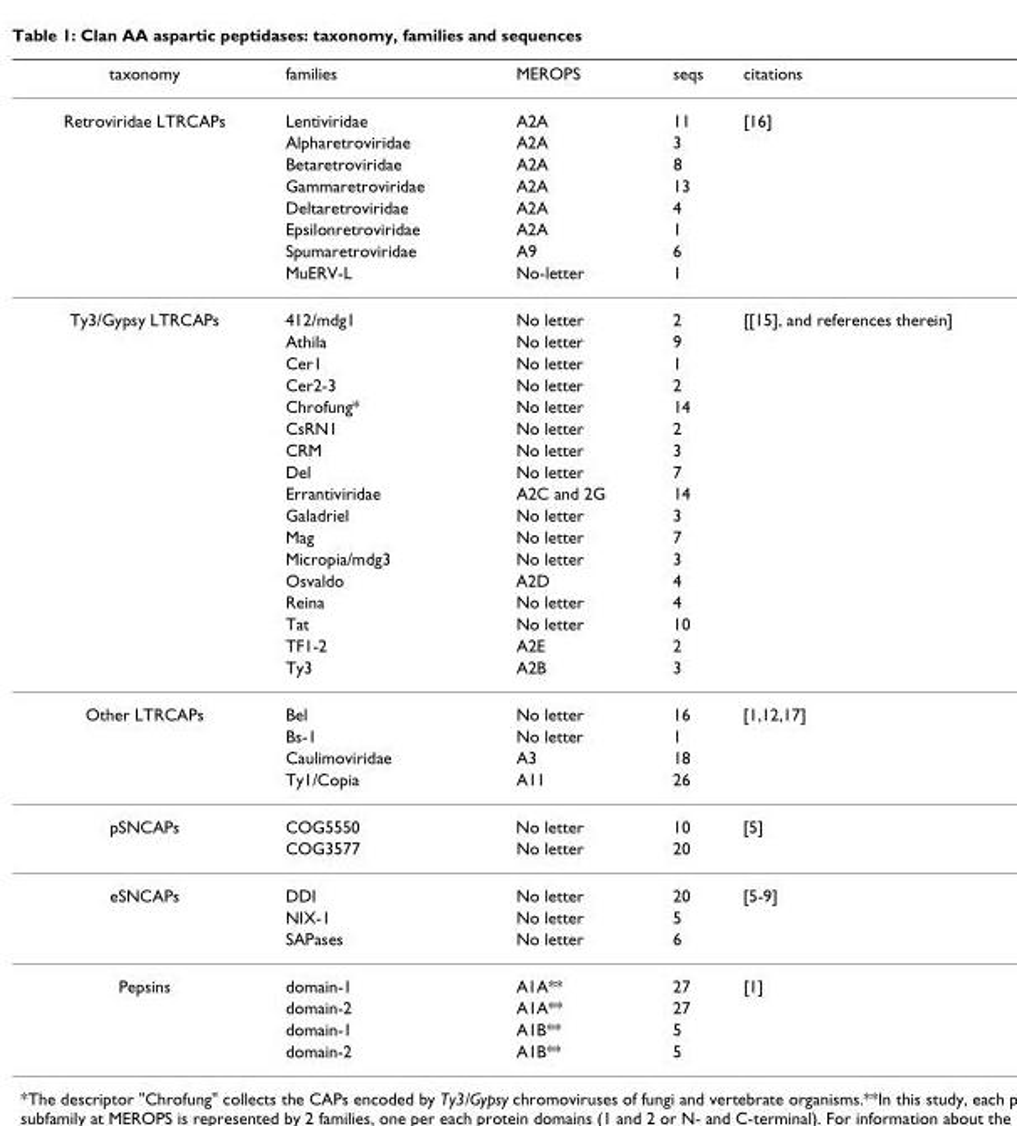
<table><thead><tr><td>taxonomy</td><td>families</td><td>MEROPS</td><td>seqs</td><td>citations</td></tr></thead><tbody><tr><td rowspan="8">Retroviridae LTRCAPs</td><td>Lentiviridae</td><td>A2A</td><td>11</td><td>[16]</td></tr><tr><td>Alpharetroviridae</td><td>A2A</td><td>3</td><td></td></tr><tr><td>Betaretroviridae</td><td>A2A</td><td>8</td><td></td></tr><tr><td>Gammaretroviridae</td><td>A2A</td><td>13</td><td></td></tr><tr><td>Deltaretroviridae</td><td>A2A</td><td>4</td><td></td></tr><tr><td>Epsilonretroviridae</td><td>A2A</td><td>1</td><td></td></tr><tr><td>Spumaretroviridae</td><td>A9</td><td>6</td><td></td></tr><tr><td>MuERV-L</td><td>No-letter</td><td>1</td><td></td></tr><tr><td rowspan="17">Ty3/Gypsy LTRCAPs</td><td>412/mdg1</td><td>No letter</td><td>2</td><td>[[15], and references therein]</td></tr><tr><td>Athila</td><td>No letter</td><td>9</td><td></td></tr><tr><td>Cer1</td><td>No letter</td><td>1</td><td></td></tr><tr><td>Cer2-3</td><td>No letter</td><td>2</td><td></td></tr><tr><td>Chrofung*</td><td>No letter</td><td>14</td><td></td></tr><tr><td>CsRN1</td><td>No letter</td><td>2</td><td></td></tr><tr><td>CRM</td><td>No letter</td><td>3</td><td></td></tr><tr><td>Del</td><td>No letter</td><td>7</td><td></td></tr><tr><td>Errantiviridae</td><td>A2C and 2G</td><td>14</td><td></td></tr><tr><td>Galadriel</td><td>No letter</td><td>3</td><td></td></tr><tr><td>Mag</td><td>No letter</td><td>7</td><td></td></tr><tr><td>Micropia/mdg3</td><td>No letter</td><td>3</td><td></td></tr><tr><td>Osvaldo</td><td>A2D</td><td>4</td><td></td></tr><tr><td>Reina</td><td>No letter</td><td>4</td><td></td></tr><tr><td>Tat</td><td>No letter</td><td>10</td><td></td></tr><tr><td>TF1-2</td><td>A2E</td><td>2</td><td></td></tr><tr><td>Ty3</td><td>A2B</td><td>3</td><td></td></tr><tr><td rowspan="4">Other LTRCAPs</td><td>Bel</td><td>No letter</td><td>16</td><td>[1,12,17]</td></tr><tr><td>Bs-1</td><td>No letter</td><td>1</td><td></td></tr><tr><td>Caulimoviridae</td><td>A3</td><td>18</td><td></td></tr><tr><td>Ty1/Copia</td><td>A11</td><td>26</td><td></td></tr><tr><td rowspan="2">pSNCAPs</td><td>COG5550</td><td>No letter</td><td>10</td><td>[5]</td></tr><tr><td>COG3577</td><td>No letter</td><td>20</td><td></td></tr><tr><td rowspan="3">eSNCAPs</td><td>DDI</td><td>No letter</td><td>20</td><td>[5-9]</td></tr><tr><td>NIX-1</td><td>No letter</td><td>5</td><td></td></tr><tr><td>SAPases</td><td>No letter</td><td>6</td><td></td></tr><tr><td rowspan="4">Pepsins</td><td>domain-1</td><td>A1A**</td><td>27</td><td>[1]</td></tr><tr><td>domain-2</td><td>A1A**</td><td>27</td><td></td></tr><tr><td>domain-1</td><td>A1B**</td><td>5</td><td></td></tr><tr><td>domain-2</td><td>A1B**</td><td>5</td><td></td></tr></tbody></table>